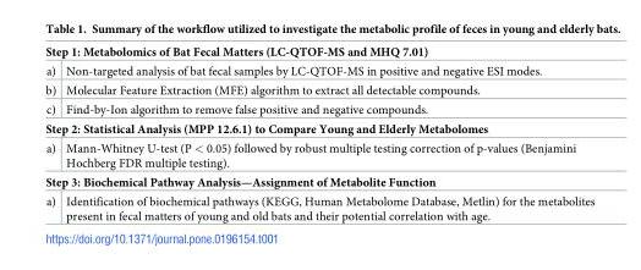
<table><tbody><tr><td colspan="2">Step 1: Metabolomics of Bat Fecal Matters (LC-QTOF-MS and MHQ 7.01)</td></tr><tr><td>a)</td><td>Non-targeted analysis of bat fecal samples by LC-QTOF-MS in positive and negative ESI modes.</td></tr><tr><td>b)</td><td>Molecular Feature Extraction (MFE) algorithm to extract all detectable compounds.</td></tr><tr><td>c)</td><td>Find-by-Ion algorithm to remove false positive and negative compounds.</td></tr><tr><td colspan="2">Step 2: Statistical Analysis (MPP 12.6.1) to Compare Young and Elderly Metabolomes</td></tr><tr><td>a)</td><td>Mann-Whitney U-test (P &lt; 0.05) followed by robust multiple testing correction of p-values (Benjamini Hochberg FDR multiple testing).</td></tr><tr><td colspan="2">Step 3: Biochemical Pathway Analysis—Assignment of Metabolite Function</td></tr><tr><td>a)</td><td>Identification of biochemical pathways (KEGG, Human Metabolome Database, Metlin) for the metabolites present in fecal matters of young and old bats and their potential correlation with age.</td></tr></tbody></table>